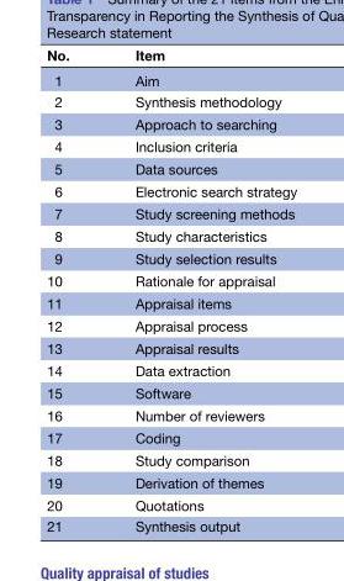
<table><thead><tr><td>No.</td><td>Item</td></tr></thead><tbody><tr><td>1</td><td>Aim</td></tr><tr><td>2</td><td>Synthesis methodology</td></tr><tr><td>3</td><td>Approach to searching</td></tr><tr><td>4</td><td>Inclusion criteria</td></tr><tr><td>5</td><td>Data sources</td></tr><tr><td>6</td><td>Electronic search strategy</td></tr><tr><td>7</td><td>Study screening methods</td></tr><tr><td>8</td><td>Study characteristics</td></tr><tr><td>9</td><td>Study selection results</td></tr><tr><td>10</td><td>Rationale for appraisal</td></tr><tr><td>11</td><td>Appraisal items</td></tr><tr><td>12</td><td>Appraisal process</td></tr><tr><td>13</td><td>Appraisal results</td></tr><tr><td>14</td><td>Data extraction</td></tr><tr><td>15</td><td>Software</td></tr><tr><td>16</td><td>Number of reviewers</td></tr><tr><td>17</td><td>Coding</td></tr><tr><td>18</td><td>Study comparison</td></tr><tr><td>19</td><td>Derivation of themes</td></tr><tr><td>20</td><td>Quotations</td></tr><tr><td>21</td><td>Synthesis output</td></tr></tbody></table>